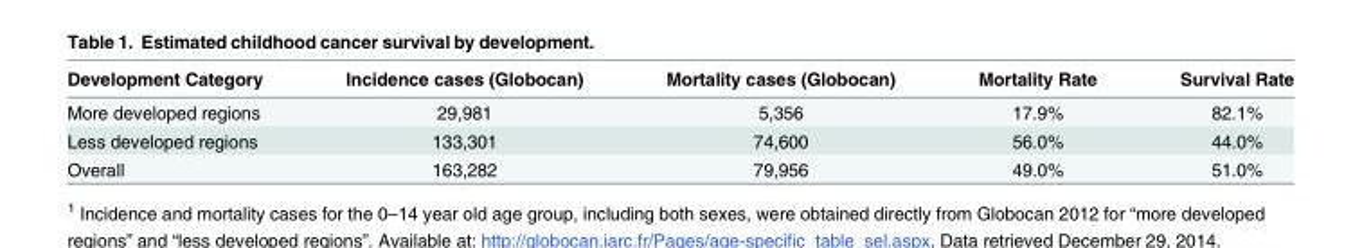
<table><thead><tr><td>Development Category</td><td>Incidence cases (Globocan)</td><td>Mortality cases (Globocan)</td><td>Mortality Rate</td><td>Survival Rate</td></tr></thead><tbody><tr><td>More developed regions</td><td>29,981</td><td>5,356</td><td>17.9%</td><td>82.1%</td></tr><tr><td>Less developed regions</td><td>133,301</td><td>74,600</td><td>56.0%</td><td>44.0%</td></tr><tr><td>Overall</td><td>163,282</td><td>79,956</td><td>49.0%</td><td>51.0%</td></tr></tbody></table>